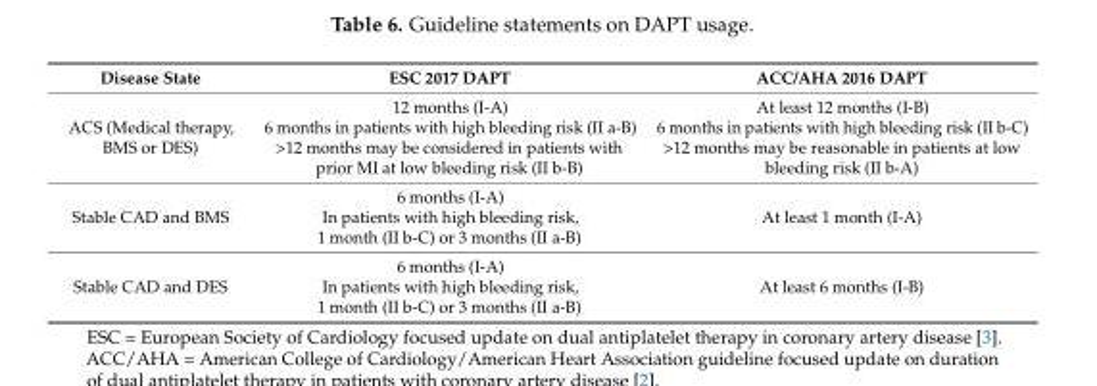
<table><thead><tr><td>Disease State</td><td>ESC 2017 DAPT</td><td>ACC/AHA 2016 DAPT</td></tr></thead><tbody><tr><td>ACS (Medical therapy, BMS or DES)</td><td>12 months (I-A) 6 months in patients with high bleeding risk (II a-B) &gt;12 months may be considered in patients with prior MI at low bleeding risk (II b-B)</td><td>At least 12 months (I-B) 6 months in patients with high bleeding risk (II b-C) &gt;12 months may be reasonable in patients at low bleeding risk (II b-A)</td></tr><tr><td>Stable CAD and BMS</td><td>6 months (I-A) In patients with high bleeding risk, 1 month (II b-C) or 3 months (II a-B)</td><td>At least 1 month (I-A)</td></tr><tr><td>Stable CAD and DES</td><td>6 months (I-A) In patients with high bleeding risk, 1 month (II b-C) or 3 months (II a-B)</td><td>At least 6 months (I-B)</td></tr></tbody></table>